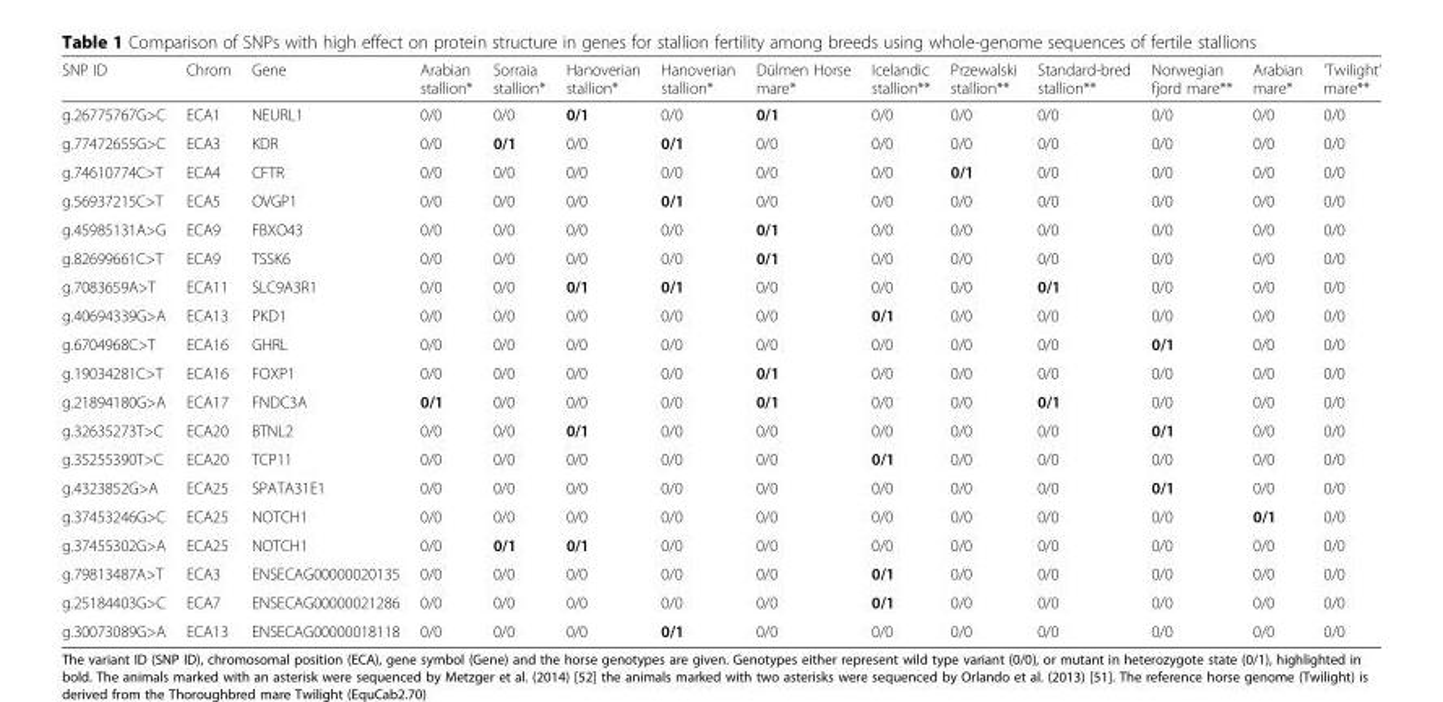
<table><thead><tr><td>SNP ID</td><td>Chrom</td><td>Gene</td><td>Arabian stallion*</td><td>Sorraia stallion*</td><td>Hanoverian stallion*</td><td>Hanoverian stallion*</td><td>Dülmen Horse mare*</td><td>Icelandic stallion**</td><td>Przewalski stallion**</td><td>Standard-bred stallion**</td><td>Norwegian fjord mare**</td><td>Arabian mare*</td><td>‘Twilight‘ mare**</td></tr></thead><tbody><tr><td>g.26775767G&gt;C</td><td>ECA1</td><td>NEURL1</td><td>0/0</td><td>0/0</td><td>0/1</td><td>0/0</td><td>0/1</td><td>0/0</td><td>0/0</td><td>0/0</td><td>0/0</td><td>0/0</td><td>0/0</td></tr><tr><td>g.77472655G&gt;C</td><td>ECA3</td><td>KDR</td><td>0/0</td><td>0/1</td><td>0/0</td><td>0/1</td><td>0/0</td><td>0/0</td><td>0/0</td><td>0/0</td><td>0/0</td><td>0/0</td><td>0/0</td></tr><tr><td>g.74610774C&gt;T</td><td>ECA4</td><td>CFTR</td><td>0/0</td><td>0/0</td><td>0/0</td><td>0/0</td><td>0/0</td><td>0/0</td><td>0/1</td><td>0/0</td><td>0/0</td><td>0/0</td><td>0/0</td></tr><tr><td>g.56937215C&gt;T</td><td>ECA5</td><td>OVGP1</td><td>0/0</td><td>0/0</td><td>0/0</td><td>0/1</td><td>0/0</td><td>0/0</td><td>0/0</td><td>0/0</td><td>0/0</td><td>0/0</td><td>0/0</td></tr><tr><td>g.45985131A&gt;G</td><td>ECA9</td><td>FBXO43</td><td>0/0</td><td>0/0</td><td>0/0</td><td>0/0</td><td>0/1</td><td>0/0</td><td>0/0</td><td>0/0</td><td>0/0</td><td>0/0</td><td>0/0</td></tr><tr><td>g.82699661C&gt;T</td><td>ECA9</td><td>TSSK6</td><td>0/0</td><td>0/0</td><td>0/0</td><td>0/0</td><td>0/1</td><td>0/0</td><td>0/0</td><td>0/0</td><td>0/0</td><td>0/0</td><td>0/0</td></tr><tr><td>g.7083659A&gt;T</td><td>ECA11</td><td>SLC9A3R1</td><td>0/0</td><td>0/0</td><td>0/1</td><td>0/1</td><td>0/0</td><td>0/0</td><td>0/0</td><td>0/1</td><td>0/0</td><td>0/0</td><td>0/0</td></tr><tr><td>g.40694339G&gt;A</td><td>ECA13</td><td>PKD1</td><td>0/0</td><td>0/0</td><td>0/0</td><td>0/0</td><td>0/0</td><td>0/1</td><td>0/0</td><td>0/0</td><td>0/0</td><td>0/0</td><td>0/0</td></tr><tr><td>g.6704968C&gt;T</td><td>ECA16</td><td>GHRL</td><td>0/0</td><td>0/0</td><td>0/0</td><td>0/0</td><td>0/0</td><td>0/0</td><td>0/0</td><td>0/0</td><td>0/1</td><td>0/0</td><td>0/0</td></tr><tr><td>g.19034281C&gt;T</td><td>ECA16</td><td>FOXP1</td><td>0/0</td><td>0/0</td><td>0/0</td><td>0/0</td><td>0/1</td><td>0/0</td><td>0/0</td><td>0/0</td><td>0/0</td><td>0/0</td><td>0/0</td></tr><tr><td>g.21894180G&gt;A</td><td>ECA17</td><td>FNDC3A</td><td>0/1</td><td>0/0</td><td>0/0</td><td>0/0</td><td>0/1</td><td>0/0</td><td>0/0</td><td>0/1</td><td>0/0</td><td>0/0</td><td>0/0</td></tr><tr><td>g.32635273T&gt;C</td><td>ECA20</td><td>BTNL2</td><td>0/0</td><td>0/0</td><td>0/1</td><td>0/0</td><td>0/0</td><td>0/0</td><td>0/0</td><td>0/0</td><td>0/1</td><td>0/0</td><td>0/0</td></tr><tr><td>g.35255390T&gt;C</td><td>ECA20</td><td>TCP11</td><td>0/0</td><td>0/0</td><td>0/0</td><td>0/0</td><td>0/0</td><td>0/1</td><td>0/0</td><td>0/0</td><td>0/0</td><td>0/0</td><td>0/0</td></tr><tr><td>g.4323852G&gt;A</td><td>ECA25</td><td>SPATA31E1</td><td>0/0</td><td>0/0</td><td>0/0</td><td>0/0</td><td>0/0</td><td>0/0</td><td>0/0</td><td>0/0</td><td>0/1</td><td>0/0</td><td>0/0</td></tr><tr><td>g.37453246G&gt;C</td><td>ECA25</td><td>NOTCH1</td><td>0/0</td><td>0/0</td><td>0/0</td><td>0/0</td><td>0/0</td><td>0/0</td><td>0/0</td><td>0/0</td><td>0/0</td><td>0/1</td><td>0/0</td></tr><tr><td>g.37455302G&gt;A</td><td>ECA25</td><td>NOTCH1</td><td>0/0</td><td>0/1</td><td>0/1</td><td>0/0</td><td>0/0</td><td>0/0</td><td>0/0</td><td>0/0</td><td>0/0</td><td>0/0</td><td>0/0</td></tr><tr><td>g.79813487A&gt;T</td><td>ECA3</td><td>ENSECAG00000020135</td><td>0/0</td><td>0/0</td><td>0/0</td><td>0/0</td><td>0/0</td><td>0/1</td><td>0/0</td><td>0/0</td><td>0/0</td><td>0/0</td><td>0/0</td></tr><tr><td>g.25184403G&gt;C</td><td>ECA7</td><td>ENSECAG00000021286</td><td>0/0</td><td>0/0</td><td>0/0</td><td>0/0</td><td>0/0</td><td>0/1</td><td>0/0</td><td>0/0</td><td>0/0</td><td>0/0</td><td>0/0</td></tr><tr><td>g.30073089G&gt;A</td><td>ECA13</td><td>ENSECAG00000018118</td><td>0/0</td><td>0/0</td><td>0/0</td><td>0/1</td><td>0/0</td><td>0/0</td><td>0/0</td><td>0/0</td><td>0/0</td><td>0/0</td><td>0/0</td></tr></tbody></table>